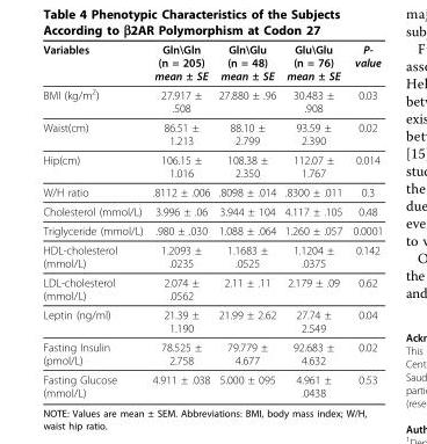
<table><thead><tr><td>Variables</td><td>Gln\Gln (n = 205) mean ± SE</td><td>Gln\Glu (n = 48) mean ± SE</td><td>Glu\Glu (n = 76) mean ± SE</td><td>P- value</td></tr></thead><tbody><tr><td>BMI (kg/m<sup>2</sup>)</td><td>27.917 ± .508</td><td>27.880 ± .96</td><td>30.483 ± .908</td><td>0.03</td></tr><tr><td>Waist(cm)</td><td>86.51 ± 1.213</td><td>88.10 ± 2.799</td><td>93.59 ± 2.390</td><td>0.02</td></tr><tr><td>Hip(cm)</td><td>106.15 ± 1.016</td><td>108.38 ± 2.350</td><td>112.07 ± 1.767</td><td>0.014</td></tr><tr><td>W/H ratio</td><td>.8112 ± .006</td><td>.8098 ± .014</td><td>.8300 ± .011</td><td>0.3</td></tr><tr><td>Cholesterol (mmol/L)</td><td>3.996 ± .06</td><td>3.944 ± 104</td><td>4.117 ± .105</td><td>0.48</td></tr><tr><td>Triglyceride (mmol/L)</td><td>.980 ± .030</td><td>1.088 ± .064</td><td>1.260 ± .057</td><td>0.0001</td></tr><tr><td>HDL-cholesterol (mmol/L)</td><td>1.2093 ± .0235</td><td>1.1683 ± .0525</td><td>1.1204 ± .0375</td><td>0.142</td></tr><tr><td>LDL-cholesterol (mmol/L)</td><td>2.074 ± .0562</td><td>2.11 ± .11</td><td>2.179 ± .09</td><td>0.62</td></tr><tr><td>Leptin (ng/ml)</td><td>21.39 ± 1.190</td><td>21.99 ± 2.62</td><td>27.74 ± 2.549</td><td>0.04</td></tr><tr><td>Fasting Insulin (pmol/L)</td><td>78.525 ± 2.758</td><td>79.779 ± 4.677</td><td>92.683 ± 4.632</td><td>0.02</td></tr><tr><td>Fasting Glucose (mmol/L)</td><td>4.911 ± .038</td><td>5.000 ± 095</td><td>4.961 ± .0438</td><td>0.53</td></tr></tbody></table>